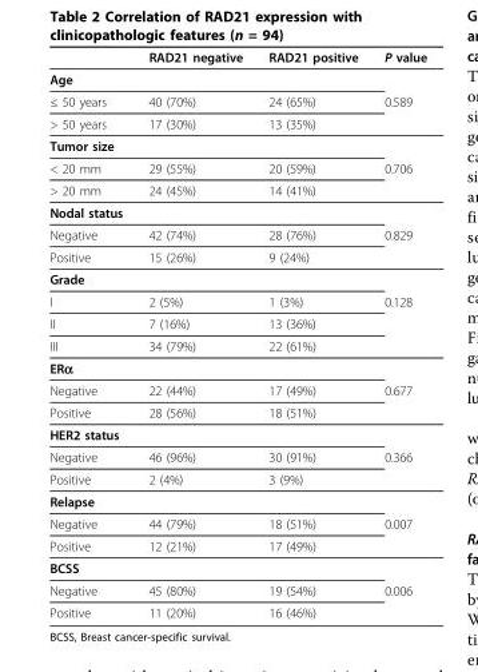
<table><thead><tr><td></td><td>RAD21 negative</td><td>RAD21 positive</td><td>P value</td></tr></thead><tbody><tr><td colspan="4">Age</td></tr><tr><td>≤ 50 years</td><td>40 (70%)</td><td>24 (65%)</td><td>0.589</td></tr><tr><td>&gt; 50 years</td><td>17 (30%)</td><td>13 (35%)</td><td></td></tr><tr><td colspan="4">Tumor size</td></tr><tr><td>&lt; 20 mm</td><td>29 (55%)</td><td>20 (59%)</td><td>0.706</td></tr><tr><td>&gt; 20 mm</td><td>24 (45%)</td><td>14 (41%)</td><td></td></tr><tr><td colspan="4">Nodal status</td></tr><tr><td>Negative</td><td>42 (74%)</td><td>28 (76%)</td><td>0.829</td></tr><tr><td>Positive</td><td>15 (26%)</td><td>9 (24%)</td><td></td></tr><tr><td colspan="4">Grade</td></tr><tr><td>I</td><td>2 (5%)</td><td>1 (3%)</td><td>0.128</td></tr><tr><td>II</td><td>7 (16%)</td><td>13 (36%)</td><td></td></tr><tr><td>III</td><td>34 (79%)</td><td>22 (61%)</td><td></td></tr><tr><td colspan="4">ERα</td></tr><tr><td>Negative</td><td>22 (44%)</td><td>17 (49%)</td><td>0.677</td></tr><tr><td>Positive</td><td>28 (56%)</td><td>18 (51%)</td><td></td></tr><tr><td colspan="4">HER2 status</td></tr><tr><td>Negative</td><td>46 (96%)</td><td>30 (91%)</td><td>0.366</td></tr><tr><td>Positive</td><td>2 (4%)</td><td>3 (9%)</td><td></td></tr><tr><td colspan="4">Relapse</td></tr><tr><td>Negative</td><td>44 (79%)</td><td>18 (51%)</td><td>0.007</td></tr><tr><td>Positive</td><td>12 (21%)</td><td>17 (49%)</td><td></td></tr><tr><td colspan="4">BCSS</td></tr><tr><td>Negative</td><td>45 (80%)</td><td>19 (54%)</td><td>0.006</td></tr><tr><td>Positive</td><td>11 (20%)</td><td>16 (46%)</td><td></td></tr></tbody></table>